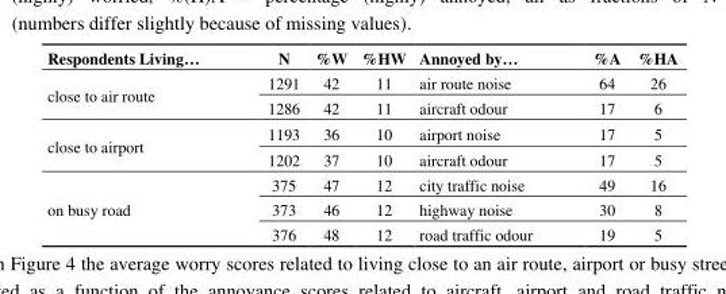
<table><thead><tr><td>Respondents Living…</td><td>N</td><td>%W</td><td>%HW</td><td>Annoyed by…</td><td>%A</td><td>%HA</td></tr></thead><tbody><tr><td rowspan="2">close to air route</td><td>1291</td><td>42</td><td>11</td><td>air route noise</td><td>64</td><td>26</td></tr><tr><td>1286</td><td>42</td><td>11</td><td>aircraft odour</td><td>17</td><td>6</td></tr><tr><td rowspan="2">close to airport</td><td>1193</td><td>36</td><td>10</td><td>airport noise</td><td>17</td><td>5</td></tr><tr><td>1202</td><td>37</td><td>10</td><td>aircraft odour</td><td>17</td><td>5</td></tr><tr><td rowspan="3">on busy road</td><td>375</td><td>47</td><td>12</td><td>city traffic noise</td><td>49</td><td>16</td></tr><tr><td>373</td><td>46</td><td>12</td><td>highway noise</td><td>30</td><td>8</td></tr><tr><td>376</td><td>48</td><td>12</td><td>road traffic odour</td><td>19</td><td>5</td></tr></tbody></table>